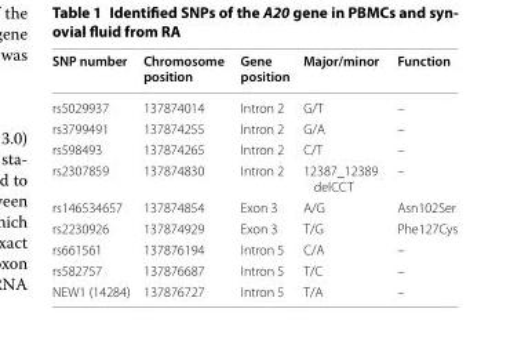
<table><thead><tr><td>SNP number</td><td>Chromosome position</td><td>Gene position</td><td>Major/minor</td><td>Function</td></tr></thead><tbody><tr><td>rs5029937</td><td>137874014</td><td>Intron 2</td><td>G/T</td><td>–</td></tr><tr><td>rs3799491</td><td>137874255</td><td>Intron 2</td><td>G/A</td><td>–</td></tr><tr><td>rs598493</td><td>137874265</td><td>Intron 2</td><td>C/T</td><td>–</td></tr><tr><td>rs2307859</td><td>137874830</td><td>Intron 2</td><td>12387_12389 delCCT</td><td>–</td></tr><tr><td>rs146534657</td><td>137874854</td><td>Exon 3</td><td>A/G</td><td>Asn102Ser</td></tr><tr><td>rs2230926</td><td>137874929</td><td>Exon 3</td><td>T/G</td><td>Phe127Cys</td></tr><tr><td>rs661561</td><td>137876194</td><td>Intron 5</td><td>C/A</td><td>–</td></tr><tr><td>rs582757</td><td>137876687</td><td>Intron 5</td><td>T/C</td><td>–</td></tr><tr><td>NEW1 (14284)</td><td>137876727</td><td>Intron 5</td><td>T/A</td><td>–</td></tr></tbody></table>